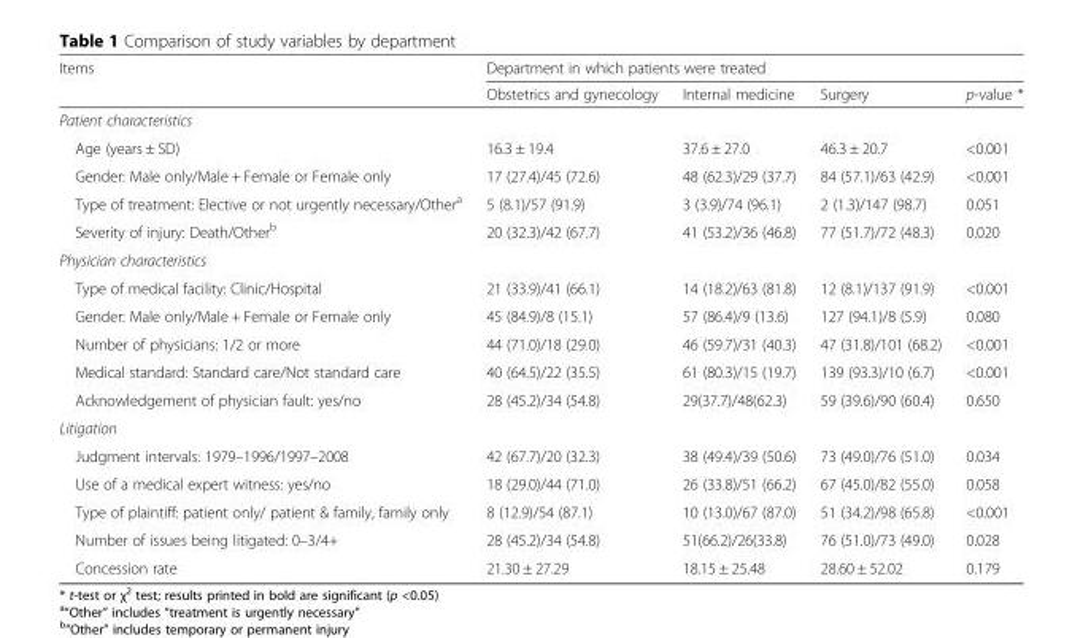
<table><thead><tr><td rowspan="2">Items</td><td colspan="4">Department in which patients were treated</td></tr><tr><td>Obstetrics and gynecology</td><td>Internal medicine</td><td>Surgery</td><td>p-value *</td></tr></thead><tbody><tr><td colspan="5">Patient characteristics</td></tr><tr><td>Age (years ± SD)</td><td>16.3 ± 19.4</td><td>37.6 ± 27.0</td><td>46.3 ± 20.7</td><td>&lt;0.001</td></tr><tr><td>Gender: Male only/Male + Female or Female only</td><td>17 (27.4)/45 (72.6)</td><td>48 (62.3)/29 (37.7)</td><td>84 (57.1)/63 (42.9)</td><td>&lt;0.001</td></tr><tr><td>Type of treatment: Elective or not urgently necessary/Other<sup>a</sup></td><td>5 (8.1)/57 (91.9)</td><td>3 (3.9)/74 (96.1)</td><td>2 (1.3)/147 (98.7)</td><td>0.051</td></tr><tr><td>Severity of injury: Death/Other<sup>b</sup></td><td>20 (32.3)/42 (67.7)</td><td>41 (53.2)/36 (46.8)</td><td>77 (51.7)/72 (48.3)</td><td>0.020</td></tr><tr><td colspan="5">Physician characteristics</td></tr><tr><td>Type of medical facility: Clinic/Hospital</td><td>21 (33.9)/41 (66.1)</td><td>14 (18.2)/63 (81.8)</td><td>12 (8.1)/137 (91.9)</td><td>&lt;0.001</td></tr><tr><td>Gender: Male only/Male + Female or Female only</td><td>45 (84.9)/8 (15.1)</td><td>57 (86.4)/9 (13.6)</td><td>127 (94.1)/8 (5.9)</td><td>0.080</td></tr><tr><td>Number of physicians: 1/2 or more</td><td>44 (71.0)/18 (29.0)</td><td>46 (59.7)/31 (40.3)</td><td>47 (31.8)/101 (68.2)</td><td>&lt;0.001</td></tr><tr><td>Medical standard: Standard care/Not standard care</td><td>40 (64.5)/22 (35.5)</td><td>61 (80.3)/15 (19.7)</td><td>139 (93.3)/10 (6.7)</td><td>&lt;0.001</td></tr><tr><td>Acknowledgement of physician fault: yes/no</td><td>28 (45.2)/34 (54.8)</td><td>29(37.7)/48(62.3)</td><td>59 (39.6)/90 (60.4)</td><td>0.650</td></tr><tr><td colspan="5">Litigation</td></tr><tr><td>Judgment intervals: 1979–1996/1997–2008</td><td>42 (67.7)/20 (32.3)</td><td>38 (49.4)/39 (50.6)</td><td>73 (49.0)/76 (51.0)</td><td>0.034</td></tr><tr><td>Use of a medical expert witness: yes/no</td><td>18 (29.0)/44 (71.0)</td><td>26 (33.8)/51 (66.2)</td><td>67 (45.0)/82 (55.0)</td><td>0.058</td></tr><tr><td>Type of plaintiff: patient only/ patient &amp; family, family only</td><td>8 (12.9)/54 (87.1)</td><td>10 (13.0)/67 (87.0)</td><td>51 (34.2)/98 (65.8)</td><td>&lt;0.001</td></tr><tr><td>Number of issues being litigated: 0–3/4+</td><td>28 (45.2)/34 (54.8)</td><td>51(66.2)/26(33.8)</td><td>76 (51.0)/73 (49.0)</td><td>0.028</td></tr><tr><td>Concession rate</td><td>21.30 ± 27.29</td><td>18.15 ± 25.48</td><td>28.60 ± 52.02</td><td>0.179</td></tr></tbody></table>